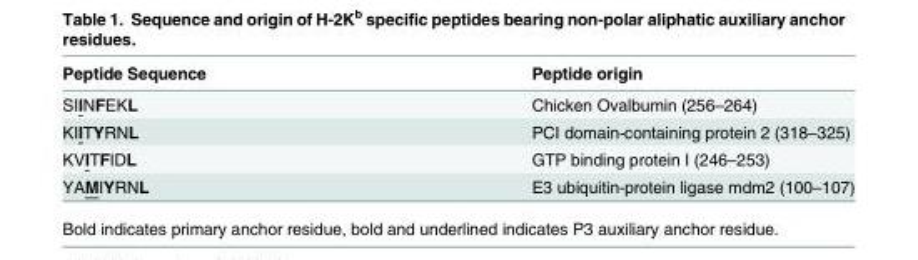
<table><thead><tr><td>Peptide Sequence</td><td>Peptide origin</td></tr></thead><tbody><tr><td>SIINFEKL</td><td>Chicken Ovalbumin (256–264)</td></tr><tr><td>KIITYRNL</td><td>PCI domain-containing protein 2 (318–325)</td></tr><tr><td>KVITFIDL</td><td>GTP binding protein I (246–253)</td></tr><tr><td>YAMIYRNL</td><td>E3 ubiquitin-protein ligase mdm2 (100–107)</td></tr></tbody></table>